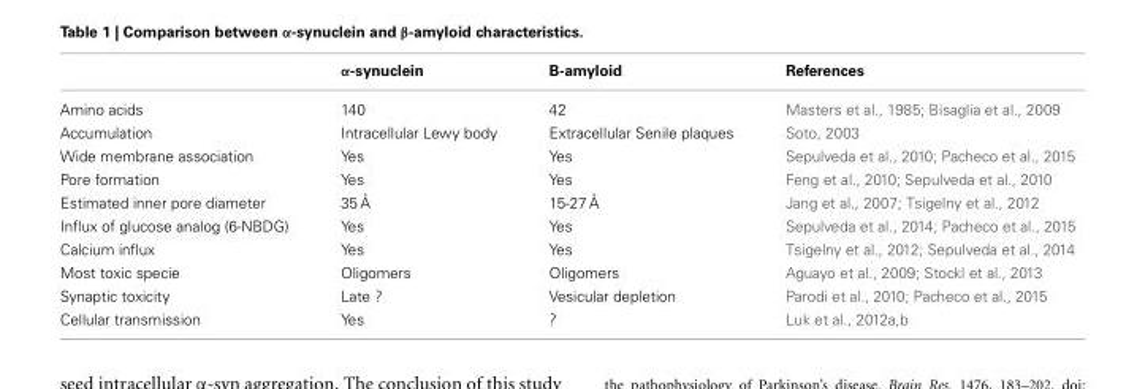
<table><thead><tr><td></td><td>α-synuclein</td><td>B-amyloid</td><td>References</td></tr></thead><tbody><tr><td>Amino acids</td><td>140</td><td>42</td><td>Masters et al., 1985; Bisaglia et al., 2009</td></tr><tr><td>Accumulation</td><td>Intracellular Lewy body</td><td>Extracellular Senile plaques</td><td>Soto, 2003</td></tr><tr><td>Wide membrane association</td><td>Yes</td><td>Yes</td><td>Sepulveda et al., 2010; Pacheco et al., 2015</td></tr><tr><td>Pore formation</td><td>Yes</td><td>Yes</td><td>Feng et al., 2010; Sepulveda et al., 2010</td></tr><tr><td>Estimated inner pore diameter</td><td>35 Å</td><td>15-27 Å</td><td>Jang et al., 2007; Tsigelny et al., 2012</td></tr><tr><td>Influx of glucose analog (6-NBDG)</td><td>Yes</td><td>Yes</td><td>Sepulveda et al., 2014; Pacheco et al., 2015</td></tr><tr><td>Calcium influx</td><td>Yes</td><td>Yes</td><td>Tsigelny et al., 2012; Sepulveda et al., 2014</td></tr><tr><td>Most toxic specie</td><td>Oligomers</td><td>Oligomers</td><td>Aguayo et al., 2009; Stockl et al., 2013</td></tr><tr><td>Synaptic toxicity</td><td>Late ?</td><td>Vesicular depletion</td><td>Parodi et al., 2010; Pacheco et al., 2015</td></tr><tr><td>Cellular transmission</td><td>Yes</td><td>?</td><td>Luk et al., 2012a,b</td></tr></tbody></table>